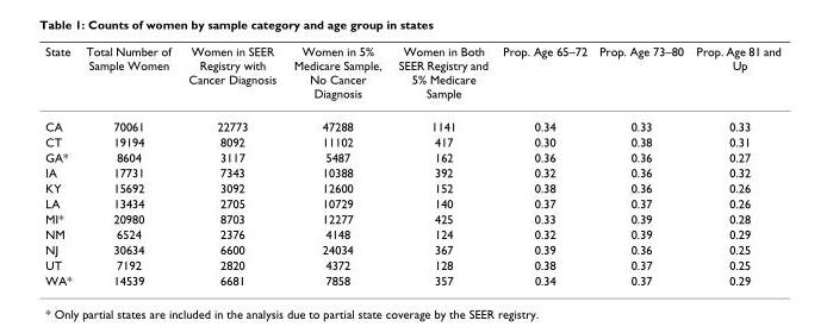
<table><thead><tr><td>State</td><td>Total Number of Sample Women</td><td>Women in SEER Registry with Cancer Diagnosis</td><td>Women in 5% Medicare Sample, No Cancer Diagnosis</td><td>Women in Both SEER Registry and 5% Medicare Sample</td><td>Prop. Age 65–72</td><td>Prop. Age 73–80</td><td>Prop. Age 81 and Up</td></tr></thead><tbody><tr><td>CA</td><td>70061</td><td>22773</td><td>47288</td><td>1141</td><td>0.34</td><td>0.33</td><td>0.33</td></tr><tr><td>CT</td><td>19194</td><td>8092</td><td>11102</td><td>417</td><td>0.30</td><td>0.38</td><td>0.31</td></tr><tr><td>GA*</td><td>8604</td><td>3117</td><td>5487</td><td>162</td><td>0.36</td><td>0.36</td><td>0.27</td></tr><tr><td>IA</td><td>17731</td><td>7343</td><td>10388</td><td>392</td><td>0.32</td><td>0.36</td><td>0.32</td></tr><tr><td>KY</td><td>15692</td><td>3092</td><td>12600</td><td>152</td><td>0.38</td><td>0.36</td><td>0.26</td></tr><tr><td>LA</td><td>13434</td><td>2705</td><td>10729</td><td>140</td><td>0.37</td><td>0.37</td><td>0.26</td></tr><tr><td>MI*</td><td>20980</td><td>8703</td><td>12277</td><td>425</td><td>0.33</td><td>0.39</td><td>0.28</td></tr><tr><td>NM</td><td>6524</td><td>2376</td><td>4148</td><td>124</td><td>0.32</td><td>0.39</td><td>0.29</td></tr><tr><td>NJ</td><td>30634</td><td>6600</td><td>24034</td><td>367</td><td>0.39</td><td>0.36</td><td>0.25</td></tr><tr><td>UT</td><td>7192</td><td>2820</td><td>4372</td><td>128</td><td>0.38</td><td>0.37</td><td>0.25</td></tr><tr><td>WA*</td><td>14539</td><td>6681</td><td>7858</td><td>357</td><td>0.34</td><td>0.37</td><td>0.29</td></tr></tbody></table>